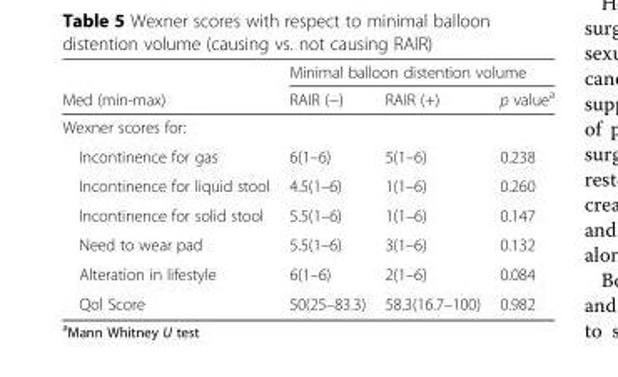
<table><thead><tr><td rowspan="2">Med (min-max)</td><td colspan="3">Minimal balloon distention volume</td></tr><tr><td>RAIR (−)</td><td>RAIR (+)</td><td>p value<sup>a</sup></td></tr></thead><tbody><tr><td colspan="4">Wexner scores for:</td></tr><tr><td>Incontinence for gas</td><td>6(1–6)</td><td>5(1–6)</td><td>0.238</td></tr><tr><td>Incontinence for liquid stool</td><td>4.5(1–6)</td><td>1(1–6)</td><td>0.260</td></tr><tr><td>Incontinence for solid stool</td><td>5.5(1–6)</td><td>1(1–6)</td><td>0.147</td></tr><tr><td>Need to wear pad</td><td>5.5(1–6)</td><td>3(1–6)</td><td>0.132</td></tr><tr><td>Alteration in lifestyle</td><td>6(1–6)</td><td>2(1–6)</td><td>0.084</td></tr><tr><td>Qol Score</td><td>50(25–83.3)</td><td>58.3(16.7–100)</td><td>0.982</td></tr></tbody></table>